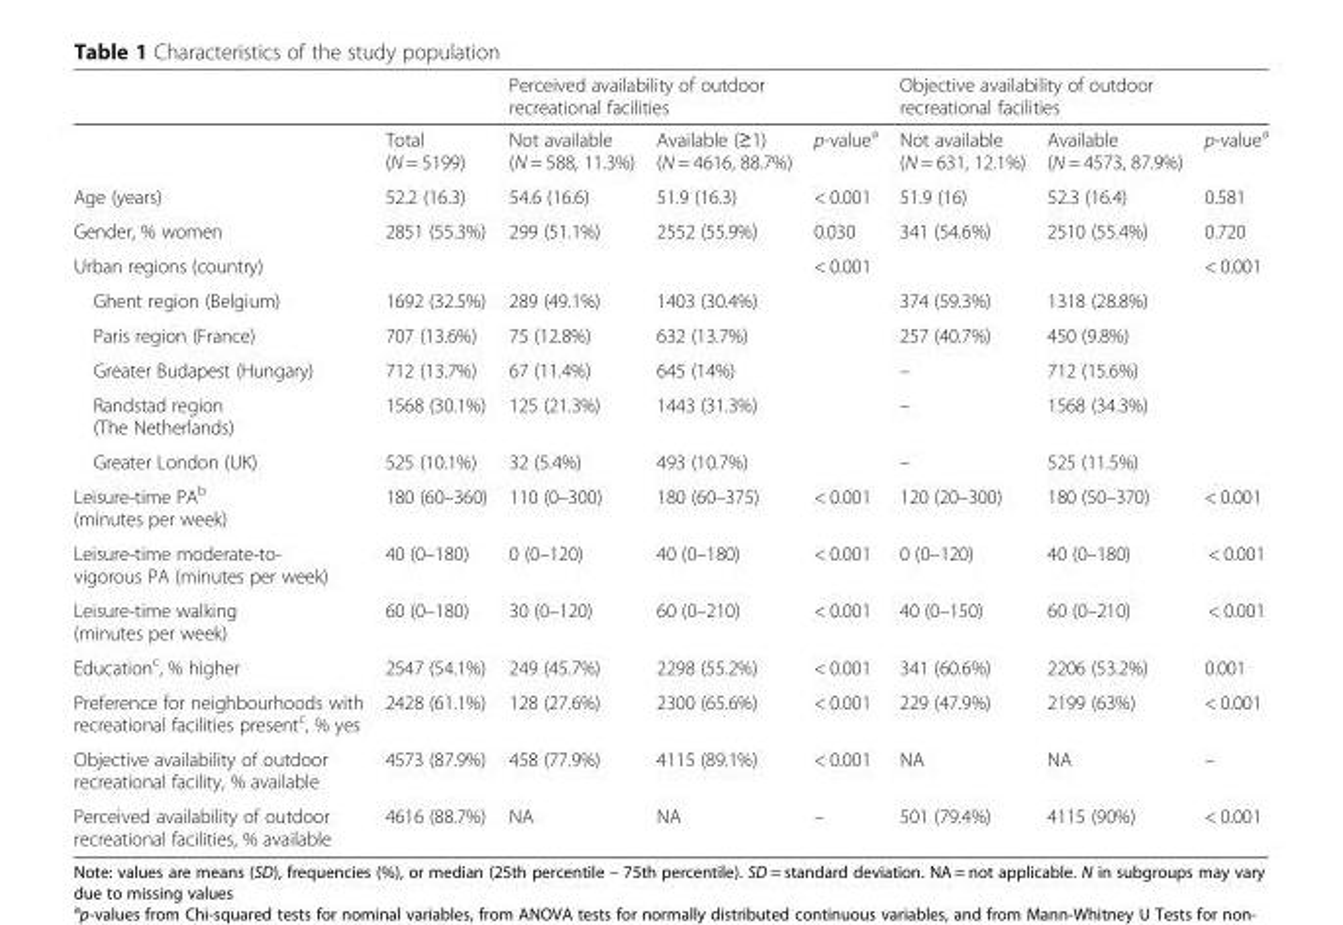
<table><thead><tr><td rowspan="2"></td><td rowspan="2">Total (N = 5199)</td><td colspan="3">Perceived availability of outdoor recreational facilities</td><td colspan="3">Objective availability of outdoor recreational facilities</td></tr><tr><td>Not available (N = 588, 11.3%)</td><td>Available (≥1) (N = 4616, 88.7%)</td><td>p-value<sup>a</sup></td><td>Not available (N = 631, 12.1%)</td><td>Available (N = 4573, 87.9%)</td><td>p-value<sup>a</sup></td></tr></thead><tbody><tr><td>Age (years)</td><td>52.2 (16.3)</td><td>54.6 (16.6)</td><td>51.9 (16.3)</td><td>&lt; 0.001</td><td>51.9 (16)</td><td>52.3 (16.4)</td><td>0.581</td></tr><tr><td>Gender, % women</td><td>2851 (55.3%)</td><td>299 (51.1%)</td><td>2552 (55.9%)</td><td>0.030</td><td>341 (54.6%)</td><td>2510 (55.4%)</td><td>0.720</td></tr><tr><td>Urban regions (country)</td><td></td><td></td><td></td><td>&lt; 0.001</td><td></td><td></td><td>&lt; 0.001</td></tr><tr><td>Ghent region (Belgium)</td><td>1692 (32.5%)</td><td>289 (49.1%)</td><td>1403 (30.4%)</td><td></td><td>374 (59.3%)</td><td>1318 (28.8%)</td><td></td></tr><tr><td>Paris region (France)</td><td>707 (13.6%)</td><td>75 (12.8%)</td><td>632 (13.7%)</td><td></td><td>257 (40.7%)</td><td>450 (9.8%)</td><td></td></tr><tr><td>Greater Budapest (Hungary)</td><td>712 (13.7%)</td><td>67 (11.4%)</td><td>645 (14%)</td><td></td><td>–</td><td>712 (15.6%)</td><td></td></tr><tr><td>Randstad region (The Netherlands)</td><td>1568 (30.1%)</td><td>125 (21.3%)</td><td>1443 (31.3%)</td><td></td><td>–</td><td>1568 (34.3%)</td><td></td></tr><tr><td>Greater London (UK)</td><td>525 (10.1%)</td><td>32 (5.4%)</td><td>493 (10.7%)</td><td></td><td>–</td><td>525 (11.5%)</td><td></td></tr><tr><td>Leisure-time PA<sup>b</sup> (minutes per week)</td><td>180 (60–360)</td><td>110 (0–300)</td><td>180 (60–375)</td><td>&lt; 0.001</td><td>120 (20–300)</td><td>180 (50–370)</td><td>&lt; 0.001</td></tr><tr><td>Leisure-time moderate-to- vigorous PA (minutes per week)</td><td>40 (0–180)</td><td>0 (0–120)</td><td>40 (0–180)</td><td>&lt; 0.001</td><td>0 (0–120)</td><td>40 (0–180)</td><td>&lt; 0.001</td></tr><tr><td>Leisure-time walking (minutes per week)</td><td>60 (0–180)</td><td>30 (0–120)</td><td>60 (0–210)</td><td>&lt; 0.001</td><td>40 (0–150)</td><td>60 (0–210)</td><td>&lt; 0.001</td></tr><tr><td>Education<sup>c</sup>, % higher</td><td>2547 (54.1%)</td><td>249 (45.7%)</td><td>2298 (55.2%)</td><td>&lt; 0.001</td><td>341 (60.6%)</td><td>2206 (53.2%)</td><td>0.001</td></tr><tr><td>Preference for neighbourhoods with recreational facilities present<sup>c</sup>, % yes</td><td>2428 (61.1%)</td><td>128 (27.6%)</td><td>2300 (65.6%)</td><td>&lt; 0.001</td><td>229 (47.9%)</td><td>2199 (63%)</td><td>&lt; 0.001</td></tr><tr><td>Objective availability of outdoor recreational facility, % available</td><td>4573 (87.9%)</td><td>458 (77.9%)</td><td>4115 (89.1%)</td><td>&lt; 0.001</td><td>NA</td><td>NA</td><td>–</td></tr><tr><td>Perceived availability of outdoor recreational facilities, % available</td><td>4616 (88.7%)</td><td>NA</td><td>NA</td><td>–</td><td>501 (79.4%)</td><td>4115 (90%)</td><td>&lt; 0.001</td></tr></tbody></table>